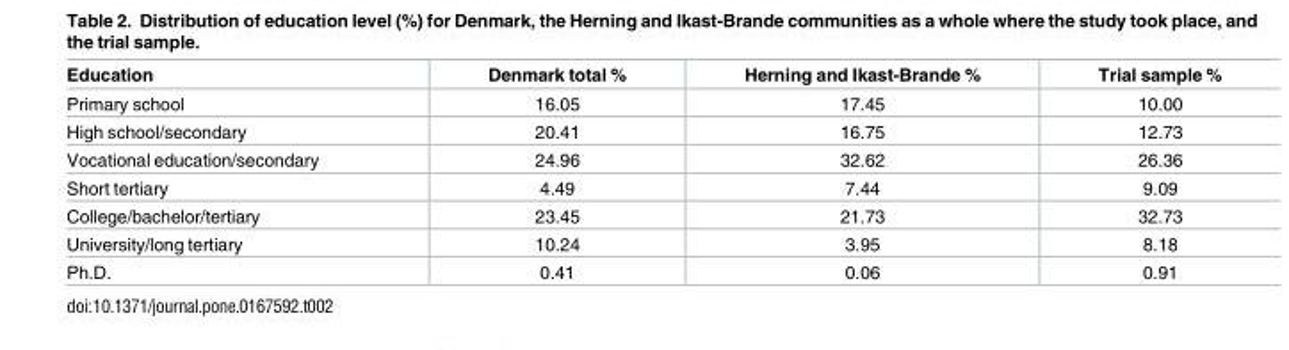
<table><thead><tr><td>Education</td><td>Denmark total %</td><td>Herning and Ikast-Brande %</td><td>Trial sample %</td></tr></thead><tbody><tr><td>Primary school</td><td>16.05</td><td>17.45</td><td>10.00</td></tr><tr><td>High school/secondary</td><td>20.41</td><td>16.75</td><td>12.73</td></tr><tr><td>Vocational education/secondary</td><td>24.96</td><td>32.62</td><td>26.36</td></tr><tr><td>Short tertiary</td><td>4.49</td><td>7.44</td><td>9.09</td></tr><tr><td>College/bachelor/tertiary</td><td>23.45</td><td>21.73</td><td>32.73</td></tr><tr><td>University/long tertiary</td><td>10.24</td><td>3.95</td><td>8.18</td></tr><tr><td>Ph.D.</td><td>0.41</td><td>0.06</td><td>0.91</td></tr></tbody></table>